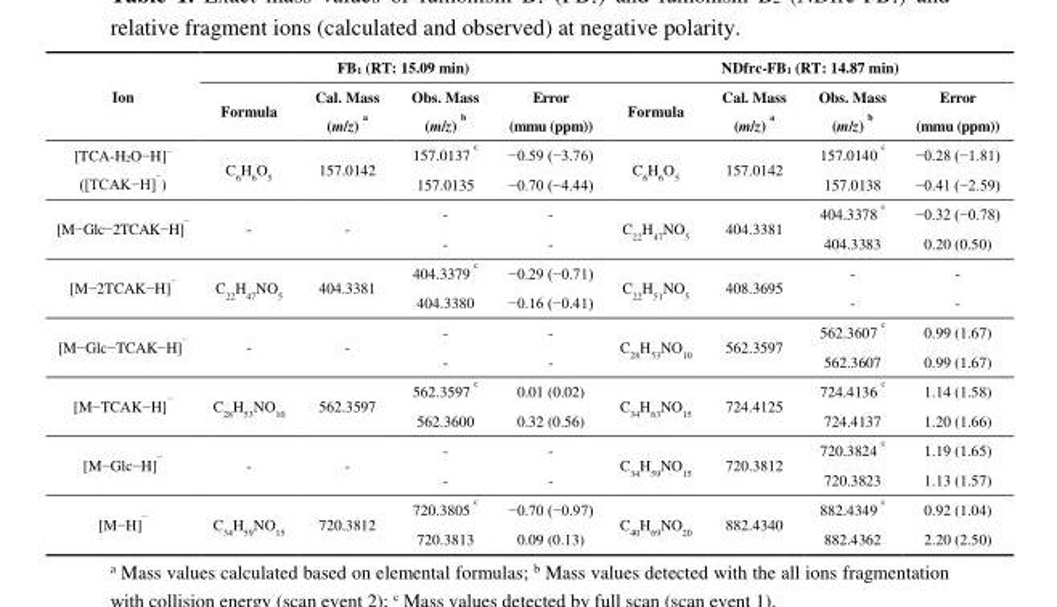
<table><thead><tr><td rowspan="2">Ion</td><td colspan="4">FB<sub>1</sub> (RT: 15.09 min)</td><td colspan="4">NDfrc-FB<sub>1</sub> (RT: 14.87 min)</td></tr><tr><td>Formula</td><td>Cal. Mass (m/z) <sup>a</sup></td><td>Obs. Mass (m/z) <sup>b</sup></td><td>Error (mmu (ppm))</td><td>Formula</td><td>Cal. Mass (m/z) <sup>a</sup></td><td>Obs. Mass (m/z) <sup>b</sup></td><td>Error (mmu (ppm))</td></tr></thead><tbody><tr><td rowspan="2">[TCA-H<sub>2</sub>O−H]<sup>−</sup> ([TCAK−H] <sup>−</sup>)</td><td rowspan="2">C<sub>6</sub>H<sub>6</sub>O<sub>5</sub></td><td rowspan="2">157.0142</td><td>157.0137 <sup>c</sup></td><td>−0.59 (−3.76)</td><td rowspan="2">C<sub>6</sub>H<sub>6</sub>O<sub>5</sub></td><td rowspan="2">157.0142</td><td>157.0140 <sup>c</sup></td><td>−0.28 (−1.81)</td></tr><tr><td>157.0135</td><td>−0.70 (−4.44)</td><td>157.0138</td><td>−0.41 (−2.59)</td></tr><tr><td rowspan="2">[M−Glc−2TCAK−H] <sup>−</sup></td><td rowspan="2">-</td><td rowspan="2">-</td><td>-</td><td>-</td><td rowspan="2">C<sub>22</sub>H<sub>47</sub>NO<sub>5</sub></td><td rowspan="2">404.3381</td><td>404.3378 <sup>c</sup></td><td>−0.32 (−0.78)</td></tr><tr><td>-</td><td>-</td><td>404.3383</td><td>0.20 (0.50)</td></tr><tr><td rowspan="2">[M−2TCAK−H] <sup>−</sup></td><td rowspan="2">C<sub>22</sub>H<sub>47</sub>NO<sub>5</sub></td><td rowspan="2">404.3381</td><td>404.3379 <sup>c</sup></td><td>−0.29 (−0.71)</td><td rowspan="2">C<sub>22</sub>H<sub>51</sub>NO<sub>5</sub></td><td rowspan="2">408.3695</td><td>-</td><td>-</td></tr><tr><td>404.3380</td><td>−0.16 (−0.41)</td><td>-</td><td>-</td></tr><tr><td rowspan="2">[M−Glc−TCAK−H] <sup>−</sup></td><td rowspan="2">-</td><td rowspan="2">-</td><td>-</td><td>-</td><td rowspan="2">C<sub>28</sub>H<sub>53</sub>NO<sub>10</sub></td><td rowspan="2">562.3597</td><td>562.3607 <sup>c</sup></td><td>0.99 (1.67)</td></tr><tr><td>-</td><td>-</td><td>562.3607</td><td>0.99 (1.67)</td></tr><tr><td rowspan="2">[M−TCAK−H] <sup>−</sup></td><td rowspan="2">C<sub>28</sub>H<sub>53</sub>NO<sub>10</sub></td><td rowspan="2">562.3597</td><td>562.3597 <sup>c</sup></td><td>0.01 (0.02)</td><td rowspan="2">C<sub>34</sub>H<sub>63</sub>NO<sub>15</sub></td><td rowspan="2">724.4125</td><td>724.4136 <sup>c</sup></td><td>1.14 (1.58)</td></tr><tr><td>562.3600</td><td>0.32 (0.56)</td><td>724.4137</td><td>1.20 (1.66)</td></tr><tr><td rowspan="2">[M−Glc−H] <sup>−</sup></td><td rowspan="2">-</td><td rowspan="2">-</td><td>-</td><td>-</td><td rowspan="2">C<sub>34</sub>H<sub>59</sub>NO<sub>15</sub></td><td rowspan="2">720.3812</td><td>720.3824 <sup>c</sup></td><td>1.19 (1.65)</td></tr><tr><td>-</td><td>-</td><td>720.3823</td><td>1.13 (1.57)</td></tr><tr><td rowspan="2">[M−H] <sup>−</sup></td><td rowspan="2">C<sub>34</sub>H<sub>59</sub>NO<sub>15</sub></td><td rowspan="2">720.3812</td><td>720.3805 <sup>c</sup></td><td>−0.70 (−0.97)</td><td rowspan="2">C<sub>40</sub>H<sub>69</sub>NO<sub>20</sub></td><td rowspan="2">882.4340</td><td>882.4349 <sup>c</sup></td><td>0.92 (1.04)</td></tr><tr><td>720.3813</td><td>0.09 (0.13)</td><td>882.4362</td><td>2.20 (2.50)</td></tr></tbody></table>